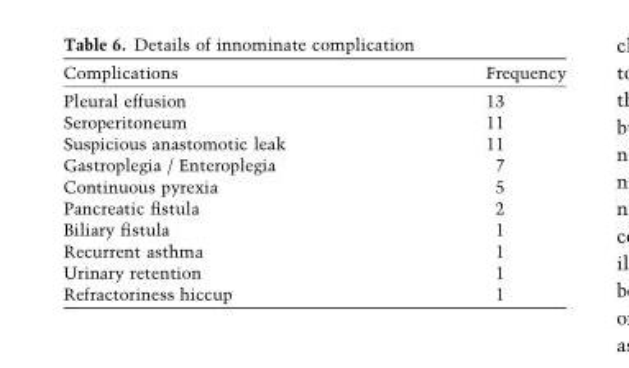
<table><thead><tr><td>Complications</td><td>Frequency</td></tr></thead><tbody><tr><td>Pleural effusion</td><td>13</td></tr><tr><td>Seroperitoneum</td><td>11</td></tr><tr><td>Suspicious anastomotic leak</td><td>11</td></tr><tr><td>Gastroplegia / Enteroplegia</td><td>7</td></tr><tr><td>Continuous pyrexia</td><td>5</td></tr><tr><td>Pancreatic fistula</td><td>2</td></tr><tr><td>Biliary fistula</td><td>1</td></tr><tr><td>Recurrent asthma</td><td>1</td></tr><tr><td>Urinary retention</td><td>1</td></tr><tr><td>Refractoriness hiccup</td><td>1</td></tr></tbody></table>